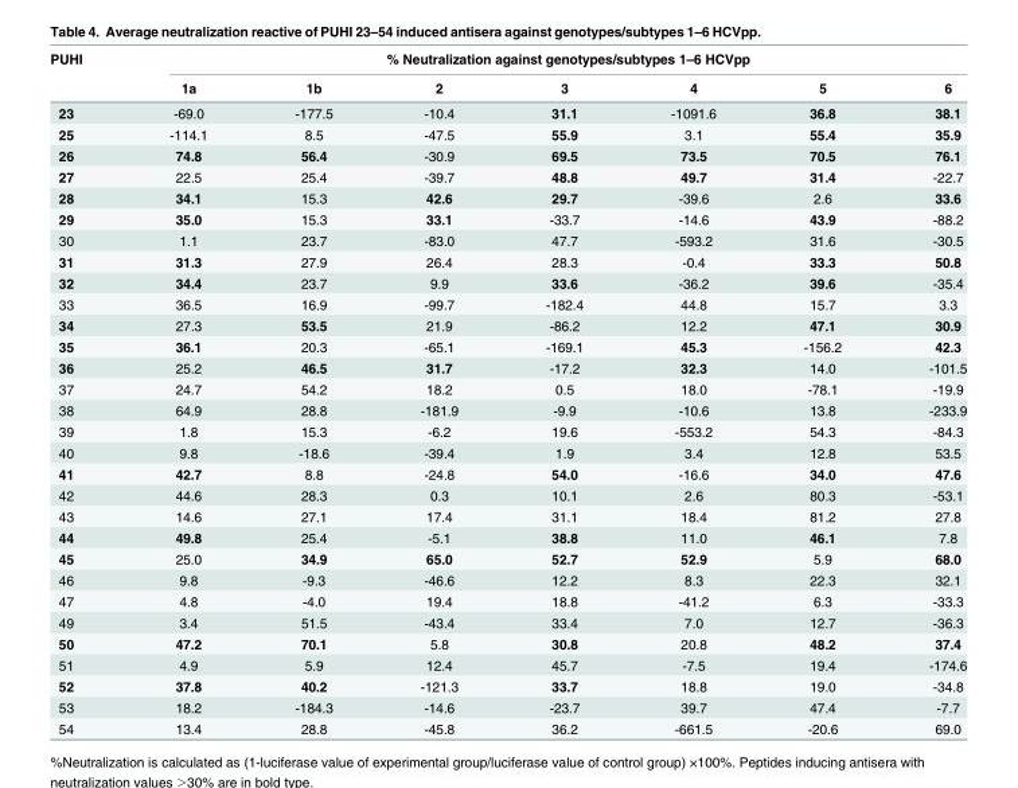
<table><thead><tr><td rowspan="2">PUHI</td><td colspan="7">% Neutralization against genotypes/subtypes 1–6 HCVpp</td></tr><tr><td>1a</td><td>1b</td><td>2</td><td>3</td><td>4</td><td>5</td><td>6</td></tr></thead><tbody><tr><td>23</td><td>-69.0</td><td>-177.5</td><td>-10.4</td><td>31.1</td><td>-1091.6</td><td>36.8</td><td>38.1</td></tr><tr><td>25</td><td>-114.1</td><td>8.5</td><td>-47.5</td><td>55.9</td><td>3.1</td><td>55.4</td><td>35.9</td></tr><tr><td>26</td><td>74.8</td><td>56.4</td><td>-30.9</td><td>69.5</td><td>73.5</td><td>70.5</td><td>76.1</td></tr><tr><td>27</td><td>22.5</td><td>25.4</td><td>-39.7</td><td>48.8</td><td>49.7</td><td>31.4</td><td>-22.7</td></tr><tr><td>28</td><td>34.1</td><td>15.3</td><td>42.6</td><td>29.7</td><td>-39.6</td><td>2.6</td><td>33.6</td></tr><tr><td>29</td><td>35.0</td><td>15.3</td><td>33.1</td><td>-33.7</td><td>-14.6</td><td>43.9</td><td>-88.2</td></tr><tr><td>30</td><td>1.1</td><td>23.7</td><td>-83.0</td><td>47.7</td><td>-593.2</td><td>31.6</td><td>-30.5</td></tr><tr><td>31</td><td>31.3</td><td>27.9</td><td>26.4</td><td>28.3</td><td>-0.4</td><td>33.3</td><td>50.8</td></tr><tr><td>32</td><td>34.4</td><td>23.7</td><td>9.9</td><td>33.6</td><td>-36.2</td><td>39.6</td><td>-35.4</td></tr><tr><td>33</td><td>36.5</td><td>16.9</td><td>-99.7</td><td>-182.4</td><td>44.8</td><td>15.7</td><td>3.3</td></tr><tr><td>34</td><td>27.3</td><td>53.5</td><td>21.9</td><td>-86.2</td><td>12.2</td><td>47.1</td><td>30.9</td></tr><tr><td>35</td><td>36.1</td><td>20.3</td><td>-65.1</td><td>-169.1</td><td>45.3</td><td>-156.2</td><td>42.3</td></tr><tr><td>36</td><td>25.2</td><td>46.5</td><td>31.7</td><td>-17.2</td><td>32.3</td><td>14.0</td><td>-101.5</td></tr><tr><td>37</td><td>24.7</td><td>54.2</td><td>18.2</td><td>0.5</td><td>18.0</td><td>-78.1</td><td>-19.9</td></tr><tr><td>38</td><td>64.9</td><td>28.8</td><td>-181.9</td><td>-9.9</td><td>-10.6</td><td>13.8</td><td>-233.9</td></tr><tr><td>39</td><td>1.8</td><td>15.3</td><td>-6.2</td><td>19.6</td><td>-553.2</td><td>54.3</td><td>-84.3</td></tr><tr><td>40</td><td>9.8</td><td>-18.6</td><td>-39.4</td><td>1.9</td><td>3.4</td><td>12.8</td><td>53.5</td></tr><tr><td>41</td><td>42.7</td><td>8.8</td><td>-24.8</td><td>54.0</td><td>-16.6</td><td>34.0</td><td>47.6</td></tr><tr><td>42</td><td>44.6</td><td>28.3</td><td>0.3</td><td>10.1</td><td>2.6</td><td>80.3</td><td>-53.1</td></tr><tr><td>43</td><td>14.6</td><td>27.1</td><td>17.4</td><td>31.1</td><td>18.4</td><td>81.2</td><td>27.8</td></tr><tr><td>44</td><td>49.8</td><td>25.4</td><td>-5.1</td><td>38.8</td><td>11.0</td><td>46.1</td><td>7.8</td></tr><tr><td>45</td><td>25.0</td><td>34.9</td><td>65.0</td><td>52.7</td><td>52.9</td><td>5.9</td><td>68.0</td></tr><tr><td>46</td><td>9.8</td><td>-9.3</td><td>-46.6</td><td>12.2</td><td>8.3</td><td>22.3</td><td>32.1</td></tr><tr><td>47</td><td>4.8</td><td>-4.0</td><td>19.4</td><td>18.8</td><td>-41.2</td><td>6.3</td><td>-33.3</td></tr><tr><td>49</td><td>3.4</td><td>51.5</td><td>-43.4</td><td>33.4</td><td>7.0</td><td>12.7</td><td>-36.3</td></tr><tr><td>50</td><td>47.2</td><td>70.1</td><td>5.8</td><td>30.8</td><td>20.8</td><td>48.2</td><td>37.4</td></tr><tr><td>51</td><td>4.9</td><td>5.9</td><td>12.4</td><td>45.7</td><td>-7.5</td><td>19.4</td><td>-174.6</td></tr><tr><td>52</td><td>37.8</td><td>40.2</td><td>-121.3</td><td>33.7</td><td>18.8</td><td>19.0</td><td>-34.8</td></tr><tr><td>53</td><td>18.2</td><td>-184.3</td><td>-14.6</td><td>-23.7</td><td>39.7</td><td>47.4</td><td>-7.7</td></tr><tr><td>54</td><td>13.4</td><td>28.8</td><td>-45.8</td><td>36.2</td><td>-661.5</td><td>-20.6</td><td>69.0</td></tr></tbody></table>